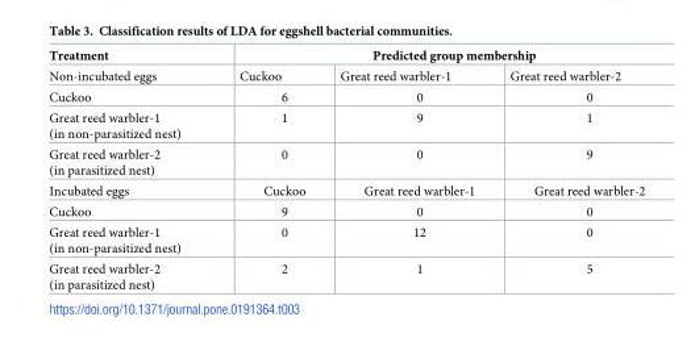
<table><thead><tr><td rowspan="2">Treatment Non-incubated eggs</td><td colspan="3">Predicted group membership</td></tr><tr><td>Cuckoo</td><td>Great reed warbler-1</td><td>Great reed warbler-2</td></tr></thead><tbody><tr><td>Cuckoo</td><td>6</td><td>0</td><td>0</td></tr><tr><td>Great reed warbler-1 (in non-parasitized nest)</td><td>1</td><td>9</td><td>1</td></tr><tr><td>Great reed warbler-2 (in parasitized nest)</td><td>0</td><td>0</td><td>9</td></tr><tr><td>Incubated eggs</td><td>Cuckoo</td><td>Great reed warbler-1</td><td>Great reed warbler-2</td></tr><tr><td>Cuckoo</td><td>9</td><td>0</td><td>0</td></tr><tr><td>Great reed warbler-1 (in non-parasitized nest)</td><td>0</td><td>12</td><td>0</td></tr><tr><td>Great reed warbler-2 (in parasitized nest)</td><td>2</td><td>1</td><td>5</td></tr></tbody></table>